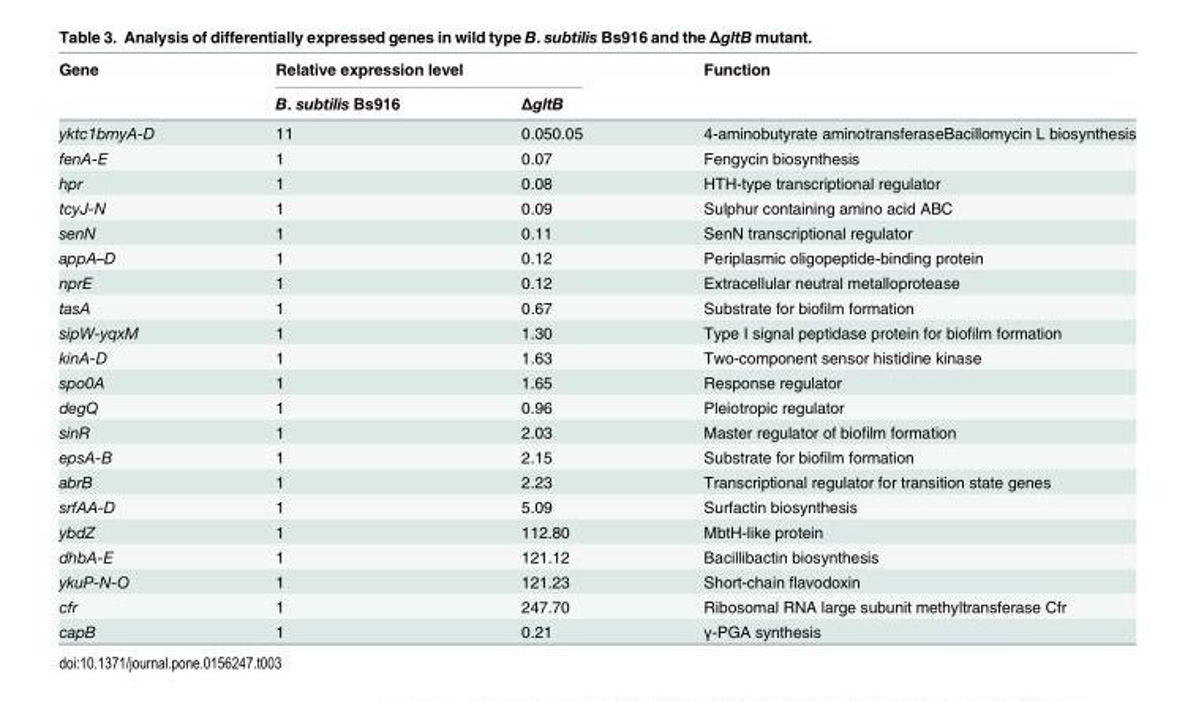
<table><thead><tr><td rowspan="2">Gene</td><td colspan="2">Relative expression level</td><td rowspan="2">Function</td></tr><tr><td>B. subtilis Bs916</td><td>ΔgltB</td></tr></thead><tbody><tr><td>yktc1bmyA-D</td><td>11</td><td>0.050.05</td><td>4-aminobutyrate aminotransferaseBacillomycin L biosynthesis</td></tr><tr><td>fenA-E</td><td>1</td><td>0.07</td><td>Fengycin biosynthesis</td></tr><tr><td>hpr</td><td>1</td><td>0.08</td><td>HTH-type transcriptional regulator</td></tr><tr><td>tcyJ-N</td><td>1</td><td>0.09</td><td>Sulphur containing amino acid ABC</td></tr><tr><td>senN</td><td>1</td><td>0.11</td><td>SenN transcriptional regulator</td></tr><tr><td>appA–D</td><td>1</td><td>0.12</td><td>Periplasmic oligopeptide-binding protein</td></tr><tr><td>nprE</td><td>1</td><td>0.12</td><td>Extracellular neutral metalloprotease</td></tr><tr><td>tasA</td><td>1</td><td>0.67</td><td>Substrate for biofilm formation</td></tr><tr><td>sipW-yqxM</td><td>1</td><td>1.30</td><td>Type I signal peptidase protein for biofilm formation</td></tr><tr><td>kinA-D</td><td>1</td><td>1.63</td><td>Two-component sensor histidine kinase</td></tr><tr><td>spo0A</td><td>1</td><td>1.65</td><td>Response regulator</td></tr><tr><td>degQ</td><td>1</td><td>0.96</td><td>Pleiotropic regulator</td></tr><tr><td>sinR</td><td>1</td><td>2.03</td><td>Master regulator of biofilm formation</td></tr><tr><td>epsA-B</td><td>1</td><td>2.15</td><td>Substrate for biofilm formation</td></tr><tr><td>abrB</td><td>1</td><td>2.23</td><td>Transcriptional regulator for transition state genes</td></tr><tr><td>srfAA-D</td><td>1</td><td>5.09</td><td>Surfactin biosynthesis</td></tr><tr><td>ybdZ</td><td>1</td><td>112.80</td><td>MbtH-like protein</td></tr><tr><td>dhbA-E</td><td>1</td><td>121.12</td><td>Bacillibactin biosynthesis</td></tr><tr><td>ykuP-N-O</td><td>1</td><td>121.23</td><td>Short-chain flavodoxin</td></tr><tr><td>cfr</td><td>1</td><td>247.70</td><td>Ribosomal RNA large subunit methyltransferase Cfr</td></tr><tr><td>capB</td><td>1</td><td>0.21</td><td>γ-PGA synthesis</td></tr></tbody></table>